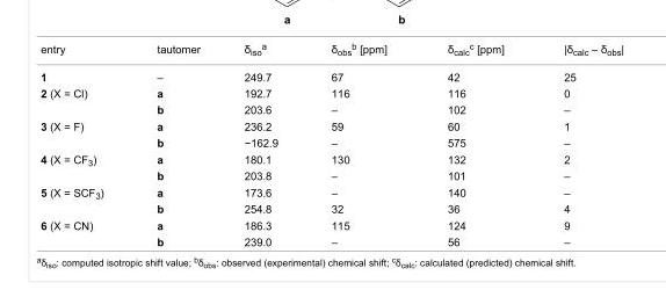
<table><tbody><tr><td>entry</td><td>tautomer</td><td>δ<sub>iso</sub><sup>a</sup></td><td>δ<sub>obs</sub><sup>b</sup> [ppm]</td><td>δ<sub>calc</sub><sup>c</sup> [ppm]</td><td>|δ<sub>calc</sub> – δ<sub>obs</sub>|</td></tr><tr><td>1</td><td>–</td><td>249.7</td><td>67</td><td>42</td><td>25</td></tr><tr><td rowspan="2">2 (X = Cl)</td><td>a</td><td>192.7</td><td>116</td><td>116</td><td>0</td></tr><tr><td>b</td><td>203.6</td><td>–</td><td>102</td><td>–</td></tr><tr><td rowspan="2">3 (X = F)</td><td>a</td><td>236.2</td><td>59</td><td>60</td><td>1</td></tr><tr><td>b</td><td>−162.9</td><td>–</td><td>575</td><td>–</td></tr><tr><td rowspan="2">4 (X = CF<sub>3</sub>)</td><td>a</td><td>180.1</td><td>130</td><td>132</td><td>2</td></tr><tr><td>b</td><td>203.8</td><td>–</td><td>101</td><td>–</td></tr><tr><td rowspan="2">5 (X = SCF<sub>3</sub>)</td><td>a</td><td>173.6</td><td>–</td><td>140</td><td>–</td></tr><tr><td>b</td><td>254.8</td><td>32</td><td>36</td><td>4</td></tr><tr><td rowspan="2">6 (X = CN)</td><td>a</td><td>186.3</td><td>115</td><td>124</td><td>9</td></tr><tr><td>b</td><td>239.0</td><td>–</td><td>56</td><td>–</td></tr></tbody></table>